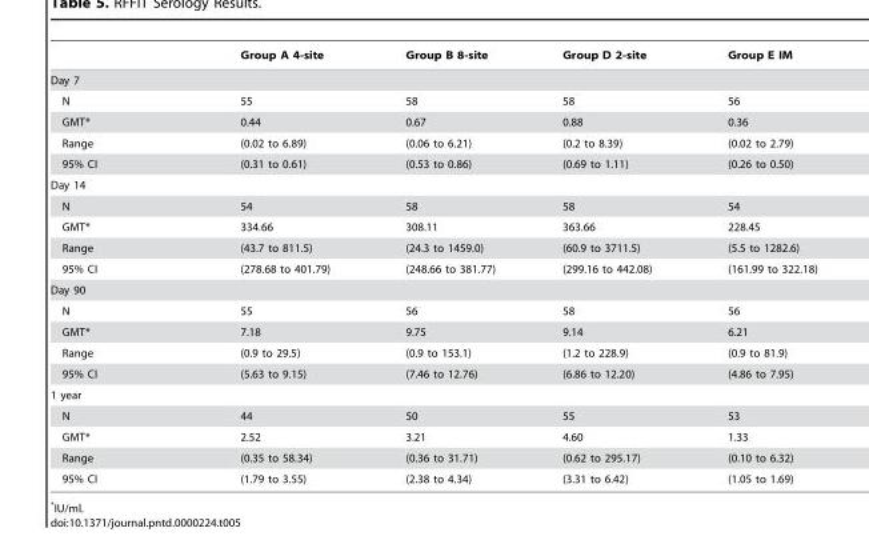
<table><thead><tr><td></td><td>Group A 4-site</td><td>Group B 8-site</td><td>Group D 2-site</td><td>Group E IM</td></tr></thead><tbody><tr><td colspan="5">Day 7</td></tr><tr><td>N</td><td>55</td><td>58</td><td>58</td><td>56</td></tr><tr><td>GMT*</td><td>0.44</td><td>0.67</td><td>0.88</td><td>0.36</td></tr><tr><td>Range</td><td>(0.02 to 6.89)</td><td>(0.06 to 6.21)</td><td>(0.2 to 8.39)</td><td>(0.02 to 2.79)</td></tr><tr><td>95% CI</td><td>(0.31 to 0.61)</td><td>(0.53 to 0.86)</td><td>(0.69 to 1.11)</td><td>(0.26 to 0.50)</td></tr><tr><td colspan="5">Day 14</td></tr><tr><td>N</td><td>54</td><td>58</td><td>58</td><td>54</td></tr><tr><td>GMT*</td><td>334.66</td><td>308.11</td><td>363.66</td><td>228.45</td></tr><tr><td>Range</td><td>(43.7 to 811.5)</td><td>(24.3 to 1459.0)</td><td>(60.9 to 3711.5)</td><td>(5.5 to 1282.6)</td></tr><tr><td>95% CI</td><td>(278.68 to 401.79)</td><td>(248.66 to 381.77)</td><td>(299.16 to 442.08)</td><td>(161.99 to 322.18)</td></tr><tr><td colspan="5">Day 90</td></tr><tr><td>N</td><td>55</td><td>56</td><td>58</td><td>56</td></tr><tr><td>GMT*</td><td>7.18</td><td>9.75</td><td>9.14</td><td>6.21</td></tr><tr><td>Range</td><td>(0.9 to 29.5)</td><td>(0.9 to 153.1)</td><td>(1.2 to 228.9)</td><td>(0.9 to 81.9)</td></tr><tr><td>95% CI</td><td>(5.63 to 9.15)</td><td>(7.46 to 12.76)</td><td>(6.86 to 12.20)</td><td>(4.86 to 7.95)</td></tr><tr><td colspan="5">1 year</td></tr><tr><td>N</td><td>44</td><td>50</td><td>55</td><td>53</td></tr><tr><td>GMT*</td><td>2.52</td><td>3.21</td><td>4.60</td><td>1.33</td></tr><tr><td>Range</td><td>(0.35 to 58.34)</td><td>(0.36 to 31.71)</td><td>(0.62 to 295.17)</td><td>(0.10 to 6.32)</td></tr><tr><td>95% CI</td><td>(1.79 to 3.55)</td><td>(2.38 to 4.34)</td><td>(3.31 to 6.42)</td><td>(1.05 to 1.69)</td></tr></tbody></table>